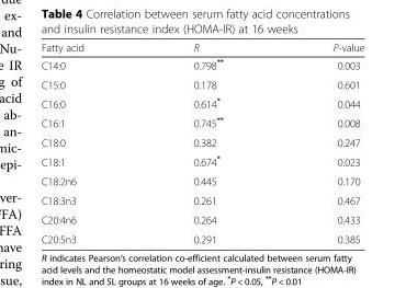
<table><thead><tr><td>Fatty acid</td><td>R</td><td>P-value</td></tr></thead><tbody><tr><td>C14:0</td><td>0.798**</td><td>0.003</td></tr><tr><td>C15:0</td><td>0.178</td><td>0.601</td></tr><tr><td>C16:0</td><td>0.614*</td><td>0.044</td></tr><tr><td>C16:1</td><td>0.745**</td><td>0.008</td></tr><tr><td>C18:0</td><td>0.382</td><td>0.247</td></tr><tr><td>C18:1</td><td>0.674*</td><td>0.023</td></tr><tr><td>C18:2n6</td><td>0.445</td><td>0.170</td></tr><tr><td>C18:3n3</td><td>0.261</td><td>0.467</td></tr><tr><td>C20:4n6</td><td>0.264</td><td>0.433</td></tr><tr><td>C20:5n3</td><td>0.291</td><td>0.385</td></tr></tbody></table>